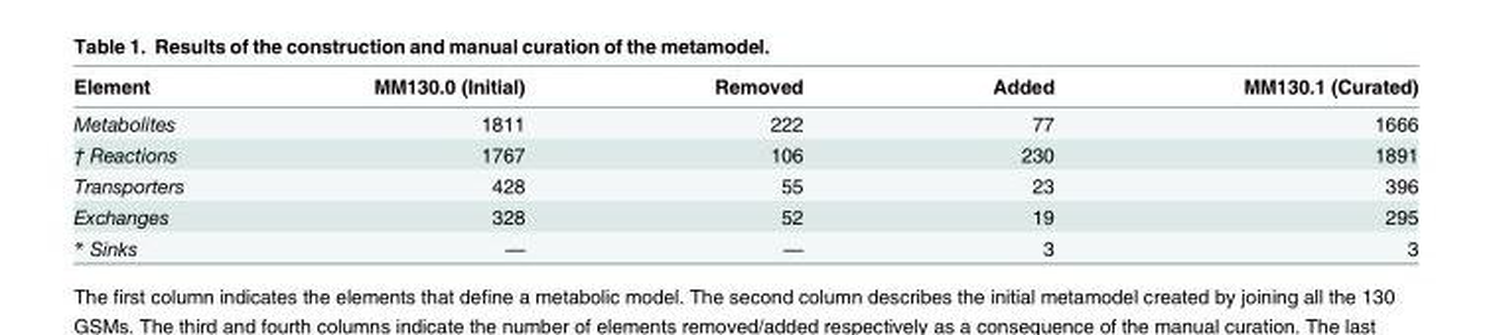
<table><thead><tr><td>Element</td><td>MM130.0 (Initial)</td><td>Removed</td><td>Added</td><td>MM130.1 (Curated)</td></tr></thead><tbody><tr><td>Metabolites</td><td>1811</td><td>222</td><td>77</td><td>1666</td></tr><tr><td>† Reactions</td><td>1767</td><td>106</td><td>230</td><td>1891</td></tr><tr><td>Transporters</td><td>428</td><td>55</td><td>23</td><td>396</td></tr><tr><td>Exchanges</td><td>328</td><td>52</td><td>19</td><td>295</td></tr><tr><td>* Sinks</td><td>—</td><td>—</td><td>3</td><td>3</td></tr></tbody></table>